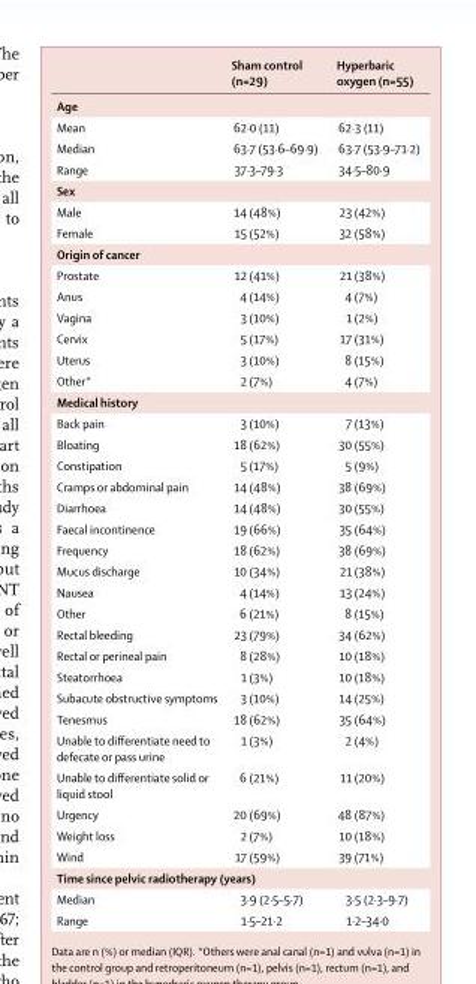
<table><thead><tr><td></td><td>Sham control (n=29)</td><td>Hyperbaric oxygen (n=55)</td></tr></thead><tbody><tr><td colspan="3">Age</td></tr><tr><td>Mean</td><td>62·0 (11)</td><td>62·3 (11)</td></tr><tr><td>Median</td><td>63·7 (53·6–69·9)</td><td>63·7 (53·9–71·2)</td></tr><tr><td>Range</td><td>37·3–79·3</td><td>34·5–80·9</td></tr><tr><td colspan="3">Sex</td></tr><tr><td>Male</td><td>14 (48%)</td><td>23 (42%)</td></tr><tr><td>Female</td><td>15 (52%)</td><td>32 (58%)</td></tr><tr><td colspan="3">Origin of cancer</td></tr><tr><td>Prostate</td><td>12 (41%)</td><td>21 (38%)</td></tr><tr><td>Anus</td><td>4 (14%)</td><td>4 (7%)</td></tr><tr><td>Vagina</td><td>3 (10%)</td><td>1 (2%)</td></tr><tr><td>Cervix</td><td>5 (17%)</td><td>17 (31%)</td></tr><tr><td>Uterus</td><td>3 (10%)</td><td>8 (15%)</td></tr><tr><td>Other*</td><td>2 (7%)</td><td>4 (7%)</td></tr><tr><td colspan="3">Medical history</td></tr><tr><td>Back pain</td><td>3 (10%)</td><td>7 (13%)</td></tr><tr><td>Bloating</td><td>18 (62%)</td><td>30 (55%)</td></tr><tr><td>Constipation</td><td>5 (17%)</td><td>5 (9%)</td></tr><tr><td>Cramps or abdominal pain</td><td>14 (48%)</td><td>38 (69%)</td></tr><tr><td>Diarrhoea</td><td>14 (48%)</td><td>30 (55%)</td></tr><tr><td>Faecal incontinence</td><td>19 (66%)</td><td>35 (64%)</td></tr><tr><td>Frequency</td><td>18 (62%)</td><td>38 (69%)</td></tr><tr><td>Mucus discharge</td><td>10 (34%)</td><td>21 (38%)</td></tr><tr><td>Nausea</td><td>4 (14%)</td><td>13 (24%)</td></tr><tr><td>Other</td><td>6 (21%)</td><td>8 (15%)</td></tr><tr><td>Rectal bleeding</td><td>23 (79%)</td><td>34 (62%)</td></tr><tr><td>Rectal or perineal pain</td><td>8 (28%)</td><td>10 (18%)</td></tr><tr><td>Steatorrhoea</td><td>1 (3%)</td><td>10 (18%)</td></tr><tr><td>Subacute obstructive symptoms</td><td>3 (10%)</td><td>14 (25%)</td></tr><tr><td>Tenesmus</td><td>18 (62%)</td><td>35 (64%)</td></tr><tr><td>Unable to diff erentiate need to defecate or pass urine</td><td>1 (3%)</td><td>2 (4%)</td></tr><tr><td>Unable to diff erentiate solid or liquid stool</td><td>6 (21%)</td><td>11 (20%)</td></tr><tr><td>Urgency</td><td>20 (69%)</td><td>48 (87%)</td></tr><tr><td>Weight loss</td><td>2 (7%)</td><td>10 (18%)</td></tr><tr><td>Wind</td><td>17 (59%)</td><td>39 (71%)</td></tr><tr><td colspan="3">Time since pelvic radiotherapy (years)</td></tr><tr><td>Median</td><td>3·9 (2·5–5·7)</td><td>3·5 (2·3–9·7)</td></tr><tr><td>Range</td><td>1·5–21·2</td><td>1·2–34·0</td></tr></tbody></table>